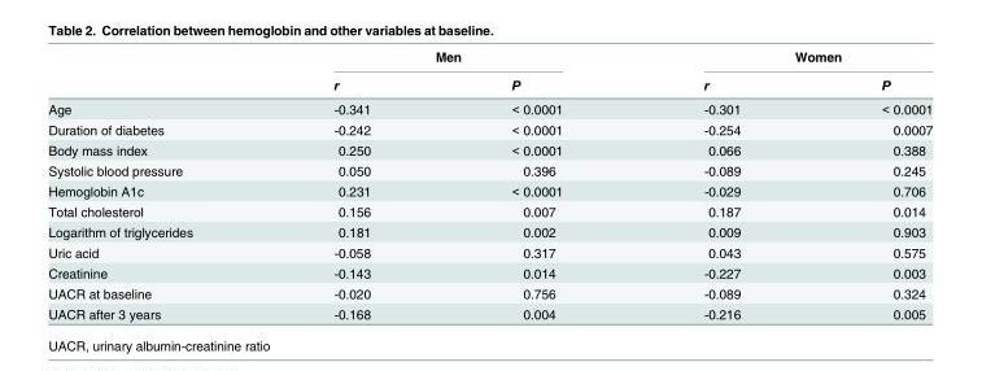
<table><thead><tr><td rowspan="2"></td><td colspan="2">Men</td><td colspan="2">Women</td></tr><tr><td>r</td><td>P</td><td>r</td><td>P</td></tr></thead><tbody><tr><td>Age</td><td>-0.341</td><td>&lt; 0.0001</td><td>-0.301</td><td>&lt; 0.0001</td></tr><tr><td>Duration of diabetes</td><td>-0.242</td><td>&lt; 0.0001</td><td>-0.254</td><td>0.0007</td></tr><tr><td>Body mass index</td><td>0.250</td><td>&lt; 0.0001</td><td>0.066</td><td>0.388</td></tr><tr><td>Systolic blood pressure</td><td>0.050</td><td>0.396</td><td>-0.089</td><td>0.245</td></tr><tr><td>Hemoglobin A1c</td><td>0.231</td><td>&lt; 0.0001</td><td>-0.029</td><td>0.706</td></tr><tr><td>Total cholesterol</td><td>0.156</td><td>0.007</td><td>0.187</td><td>0.014</td></tr><tr><td>Logarithm of triglycerides</td><td>0.181</td><td>0.002</td><td>0.009</td><td>0.903</td></tr><tr><td>Uric acid</td><td>-0.058</td><td>0.317</td><td>0.043</td><td>0.575</td></tr><tr><td>Creatinine</td><td>-0.143</td><td>0.014</td><td>-0.227</td><td>0.003</td></tr><tr><td>UACR at baseline</td><td>-0.020</td><td>0.756</td><td>-0.089</td><td>0.324</td></tr><tr><td>UACR after 3 years</td><td>-0.168</td><td>0.004</td><td>-0.216</td><td>0.005</td></tr></tbody></table>